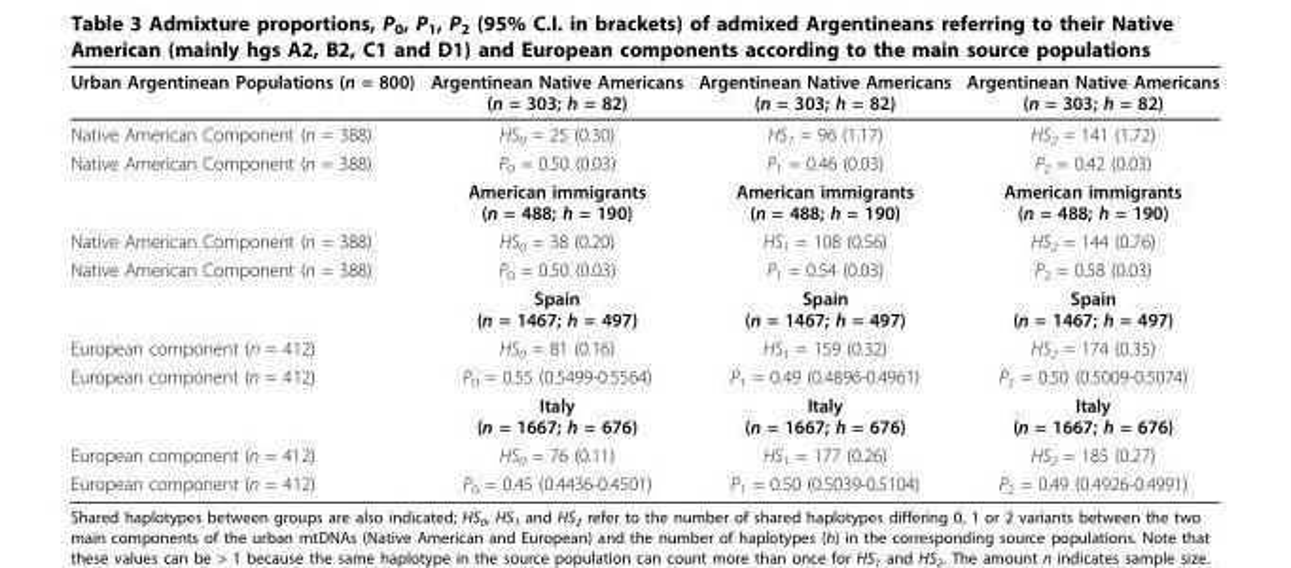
<table><thead><tr><td>Urban Argentinean Populations (n = 800)</td><td>Argentinean Native Americans (n = 303; h = 82)</td><td>Argentinean Native Americans (n = 303; h = 82)</td><td>Argentinean Native Americans (n = 303; h = 82)</td></tr></thead><tbody><tr><td>Native American Component (n = 388)</td><td>HS<sub>0</sub> = 25 (0.30)</td><td>HS<sub>1</sub> = 96 (1.17)</td><td>HS<sub>2</sub> = 141 (1.72)</td></tr><tr><td rowspan="2">Native American Component (n = 388)</td><td>P<sub>0</sub> = 0.50 (0.03)</td><td>P<sub>1</sub> = 0.46 (0.03)</td><td>P<sub>2</sub> = 0.42 (0.03)</td></tr><tr><td>American immigrants (n = 488; h = 190)</td><td>American immigrants (n = 488; h = 190)</td><td>American immigrants (n = 488; h = 190)</td></tr><tr><td>Native American Component (n = 388)</td><td>HS<sub>0</sub> = 38 (0.20)</td><td>HS<sub>1</sub> = 108 (0.56)</td><td>HS<sub>2</sub> = 144 (0.76)</td></tr><tr><td rowspan="2">Native American Component (n = 388)</td><td>P<sub>0</sub> = 0.50 (0.03)</td><td>P<sub>1</sub> = 0.54 (0.03)</td><td>P<sub>2</sub> = 0.58 (0.03)</td></tr><tr><td>Spain (n = 1467; h = 497)</td><td>Spain (n = 1467; h = 497)</td><td>Spain (n = 1467; h = 497)</td></tr><tr><td>European component (n = 412)</td><td>HS<sub>0</sub> = 81 (0.16)</td><td>HS<sub>1</sub> = 159 (0.32)</td><td>HS<sub>2</sub> = 174 (0.35)</td></tr><tr><td rowspan="2">European component (n = 412)</td><td>P<sub>0</sub> = 0.55 (0.5499-0.5564)</td><td>P<sub>1</sub> = 0.49 (0.4896-0.4961)</td><td>P<sub>2</sub> = 0.50 (0.5009-0.5074)</td></tr><tr><td>Italy (n = 1667; h = 676)</td><td>Italy (n = 1667; h = 676)</td><td>Italy (n = 1667; h = 676)</td></tr><tr><td>European component (n = 412)</td><td>HS<sub>0</sub> = 76 (0.11)</td><td>HS<sub>1</sub> = 177 (0.26)</td><td>HS<sub>2</sub> = 185 (0.27)</td></tr><tr><td>European component (n = 412)</td><td>P<sub>0</sub> = 0.45 (0.4436-0.4501)</td><td>P<sub>1</sub> = 0.50 (0.5039-0.5104)</td><td>P<sub>2</sub> = 0.49 (0.4926-0.4991)</td></tr></tbody></table>